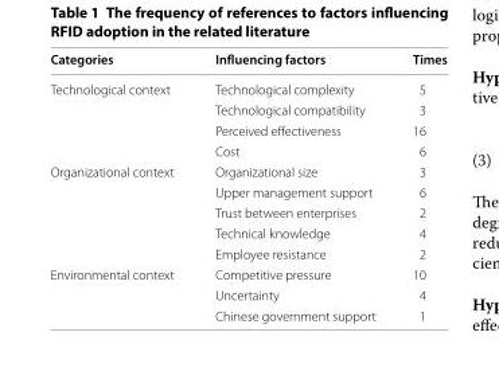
<table><thead><tr><td>Categories</td><td>Influencing factors</td><td>Times</td></tr></thead><tbody><tr><td rowspan="4">Technological context</td><td>Technological complexity</td><td>5</td></tr><tr><td>Technological compatibility</td><td>3</td></tr><tr><td>Perceived effectiveness</td><td>16</td></tr><tr><td>Cost</td><td>6</td></tr><tr><td rowspan="5">Organizational context</td><td>Organizational size</td><td>3</td></tr><tr><td>Upper management support</td><td>6</td></tr><tr><td>Trust between enterprises</td><td>2</td></tr><tr><td>Technical knowledge</td><td>4</td></tr><tr><td>Employee resistance</td><td>2</td></tr><tr><td rowspan="3">Environmental context</td><td>Competitive pressure</td><td>10</td></tr><tr><td>Uncertainty</td><td>4</td></tr><tr><td>Chinese government support</td><td>1</td></tr></tbody></table>